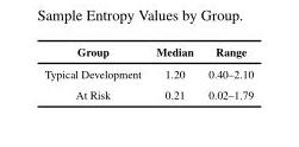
<table><thead><tr><td>Group</td><td>Median</td><td>Range</td></tr></thead><tbody><tr><td>Typical Development</td><td>1.20</td><td>0.40–2.10</td></tr><tr><td>At Risk</td><td>0.21</td><td>0.02–1.79</td></tr></tbody></table>